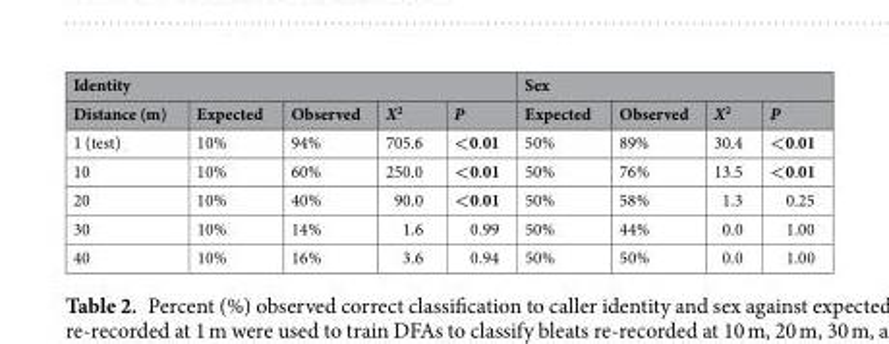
<table><thead><tr><td colspan="5">Identity</td><td colspan="4">Sex</td></tr><tr><td>Distance (m)</td><td>Expected</td><td>Observed</td><td>X<sup>2</sup></td><td>P</td><td>Expected</td><td>Observed</td><td>X<sup>2</sup></td><td>P</td></tr></thead><tbody><tr><td>1 (test)</td><td>10%</td><td>94%</td><td>705.6</td><td>&lt;0.01</td><td>50%</td><td>89%</td><td>30.4</td><td>&lt;0.01</td></tr><tr><td>10</td><td>10%</td><td>60%</td><td>250.0</td><td>&lt;0.01</td><td>50%</td><td>76%</td><td>13.5</td><td>&lt;0.01</td></tr><tr><td>20</td><td>10%</td><td>40%</td><td>90.0</td><td>&lt;0.01</td><td>50%</td><td>58%</td><td>1.3</td><td>0.25</td></tr><tr><td>30</td><td>10%</td><td>14%</td><td>1.6</td><td>0.99</td><td>50%</td><td>44%</td><td>0.0</td><td>1.00</td></tr><tr><td>40</td><td>10%</td><td>16%</td><td>3.6</td><td>0.94</td><td>50%</td><td>50%</td><td>0.0</td><td>1.00</td></tr></tbody></table>